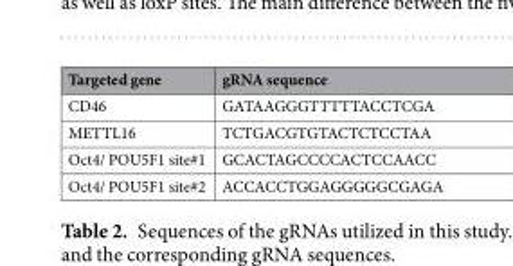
<table><thead><tr><td>Targeted gene</td><td>gRNA sequence</td></tr></thead><tbody><tr><td>CD46</td><td>GATAAGGGTTTTTACCTCGA</td></tr><tr><td>METTL16</td><td>TCTGACGTGTACTCTCCTAA</td></tr><tr><td>Oct4/ POU5F1 site#1</td><td>GCACTAGCCCCACTCCAACC</td></tr><tr><td>Oct4/ POU5F1 site#2</td><td>ACCACCTGGAGGGGGCGAGA</td></tr></tbody></table>